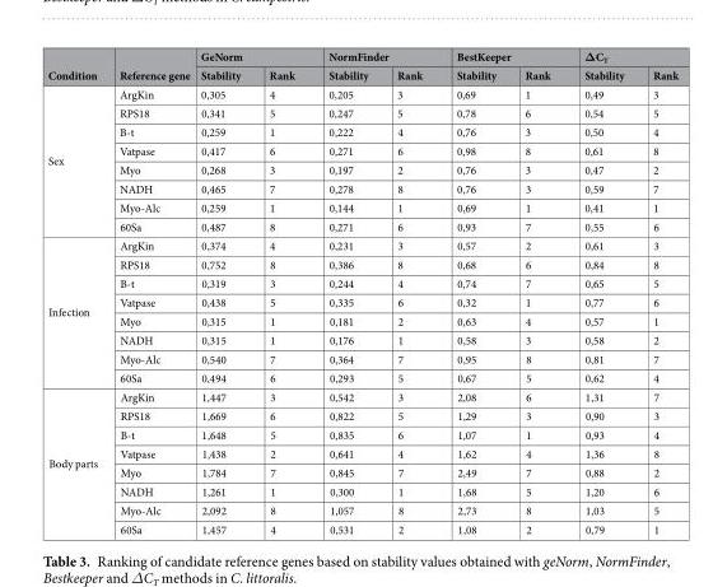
<table><thead><tr><td rowspan="2">Condition</td><td rowspan="2">Reference gene</td><td colspan="2">GeNorm</td><td colspan="2">NormFinder</td><td colspan="2">BestKeeper</td><td colspan="2">ΔC<sub>T</sub></td></tr><tr><td>Stability</td><td>Rank</td><td>Stability</td><td>Rank</td><td>Stability</td><td>Rank</td><td>Stability</td><td>Rank</td></tr></thead><tbody><tr><td rowspan="8">Sex</td><td>ArgKin</td><td>0,305</td><td>4</td><td>0,205</td><td>3</td><td>0,69</td><td>1</td><td>0,49</td><td>3</td></tr><tr><td>RPS18</td><td>0,341</td><td>5</td><td>0,247</td><td>5</td><td>0,78</td><td>6</td><td>0,54</td><td>5</td></tr><tr><td>B-t</td><td>0,259</td><td>1</td><td>0,222</td><td>4</td><td>0,76</td><td>3</td><td>0,50</td><td>4</td></tr><tr><td>Vatpase</td><td>0,417</td><td>6</td><td>0,271</td><td>6</td><td>0,98</td><td>8</td><td>0,61</td><td>8</td></tr><tr><td>Myo</td><td>0,268</td><td>3</td><td>0,197</td><td>2</td><td>0,76</td><td>3</td><td>0,47</td><td>2</td></tr><tr><td>NADH</td><td>0,465</td><td>7</td><td>0,278</td><td>8</td><td>0,76</td><td>3</td><td>0,59</td><td>7</td></tr><tr><td>Myo-Alc</td><td>0,259</td><td>1</td><td>0,144</td><td>1</td><td>0,69</td><td>1</td><td>0,41</td><td>1</td></tr><tr><td>60Sa</td><td>0,487</td><td>8</td><td>0,271</td><td>6</td><td>0,93</td><td>7</td><td>0,55</td><td>6</td></tr><tr><td rowspan="8">Infection</td><td>ArgKin</td><td>0,374</td><td>4</td><td>0,231</td><td>3</td><td>0,57</td><td>2</td><td>0,61</td><td>3</td></tr><tr><td>RPS18</td><td>0,752</td><td>8</td><td>0,386</td><td>8</td><td>0,68</td><td>6</td><td>0,84</td><td>8</td></tr><tr><td>B-t</td><td>0,319</td><td>3</td><td>0,244</td><td>4</td><td>0,74</td><td>7</td><td>0,65</td><td>5</td></tr><tr><td>Vatpase</td><td>0,438</td><td>5</td><td>0,335</td><td>6</td><td>0,32</td><td>1</td><td>0,77</td><td>6</td></tr><tr><td>Myo</td><td>0,315</td><td>1</td><td>0,181</td><td>2</td><td>0,63</td><td>4</td><td>0,57</td><td>1</td></tr><tr><td>NADH</td><td>0,315</td><td>1</td><td>0,176</td><td>1</td><td>0,58</td><td>3</td><td>0,58</td><td>2</td></tr><tr><td>Myo-Alc</td><td>0,540</td><td>7</td><td>0,364</td><td>7</td><td>0,95</td><td>8</td><td>0,81</td><td>7</td></tr><tr><td>60Sa</td><td>0,494</td><td>6</td><td>0,293</td><td>5</td><td>0,67</td><td>5</td><td>0,62</td><td>4</td></tr><tr><td rowspan="8">Body parts</td><td>ArgKin</td><td>1,447</td><td>3</td><td>0,542</td><td>3</td><td>2,08</td><td>6</td><td>1,31</td><td>7</td></tr><tr><td>RPS18</td><td>1,669</td><td>6</td><td>0,822</td><td>5</td><td>1,29</td><td>3</td><td>0,90</td><td>3</td></tr><tr><td>B-t</td><td>1,648</td><td>5</td><td>0,835</td><td>6</td><td>1,07</td><td>1</td><td>0,93</td><td>4</td></tr><tr><td>Vatpase</td><td>1,438</td><td>2</td><td>0,641</td><td>4</td><td>1,62</td><td>4</td><td>1,36</td><td>8</td></tr><tr><td>Myo</td><td>1,784</td><td>7</td><td>0,845</td><td>7</td><td>2,49</td><td>7</td><td>0,88</td><td>2</td></tr><tr><td>NADH</td><td>1,261</td><td>1</td><td>0,300</td><td>1</td><td>1,68</td><td>5</td><td>1,20</td><td>6</td></tr><tr><td>Myo-Alc</td><td>2,092</td><td>8</td><td>1,057</td><td>8</td><td>2,73</td><td>8</td><td>1,03</td><td>5</td></tr><tr><td>60Sa</td><td>1,457</td><td>4</td><td>0,531</td><td>2</td><td>1,08</td><td>2</td><td>0,79</td><td>1</td></tr></tbody></table>